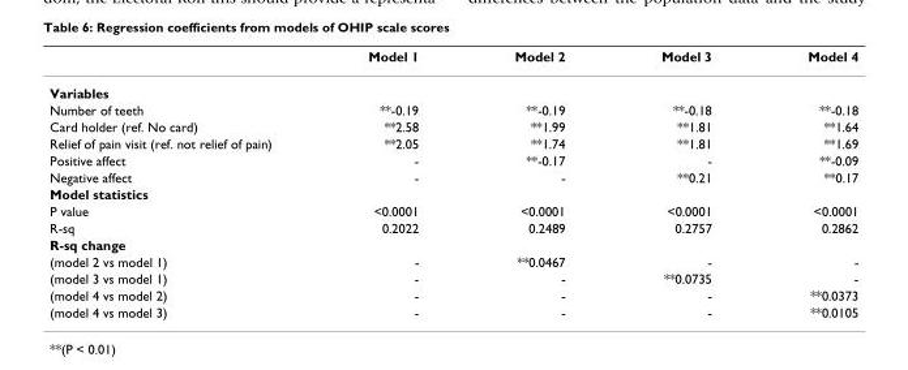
<table><thead><tr><td></td><td>Model 1</td><td>Model 2</td><td>Model 3</td><td>Model 4</td></tr></thead><tbody><tr><td colspan="5">Variables</td></tr><tr><td>Number of teeth</td><td>**-0.19</td><td>**-0.19</td><td>**-0.18</td><td>**-0.18</td></tr><tr><td>Card holder (ref. No card)</td><td>**2.58</td><td>**1.99</td><td>**1.81</td><td>**1.64</td></tr><tr><td>Relief of pain visit (ref. not relief of pain)</td><td>**2.05</td><td>**1.74</td><td>**1.81</td><td>**1.69</td></tr><tr><td>Positive affect</td><td>-</td><td>**-0.17</td><td>-</td><td>**-0.09</td></tr><tr><td>Negative affect</td><td>-</td><td>-</td><td>**0.21</td><td>**0.17</td></tr><tr><td colspan="5">Model statistics</td></tr><tr><td>P value</td><td>&lt;0.0001</td><td>&lt;0.0001</td><td>&lt;0.0001</td><td>&lt;0.0001</td></tr><tr><td>R-sq</td><td>0.2022</td><td>0.2489</td><td>0.2757</td><td>0.2862</td></tr><tr><td colspan="5">R-sq change</td></tr><tr><td>(model 2 vs model 1)</td><td>-</td><td>**0.0467</td><td>-</td><td>-</td></tr><tr><td>(model 3 vs model 1)</td><td>-</td><td>-</td><td>**0.0735</td><td>-</td></tr><tr><td>(model 4 vs model 2)</td><td>-</td><td>-</td><td>-</td><td>**0.0373</td></tr><tr><td>(model 4 vs model 3)</td><td>-</td><td>-</td><td>-</td><td>**0.0105</td></tr></tbody></table>